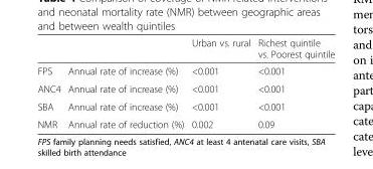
<table><thead><tr><td></td><td></td><td>Urban vs. rural</td><td>Richest quintile vs. Poorest quintile</td></tr></thead><tbody><tr><td>FPS</td><td>Annual rate of increase (%)</td><td>&lt;0.001</td><td>&lt;0.001</td></tr><tr><td>ANC4</td><td>Annual rate of increase (%)</td><td>&lt;0.001</td><td>&lt;0.001</td></tr><tr><td>SBA</td><td>Annual rate of increase (%)</td><td>&lt;0.001</td><td>&lt;0.001</td></tr><tr><td>NMR</td><td>Annual rate of reduction (%)</td><td>0.002</td><td>0.09</td></tr></tbody></table>